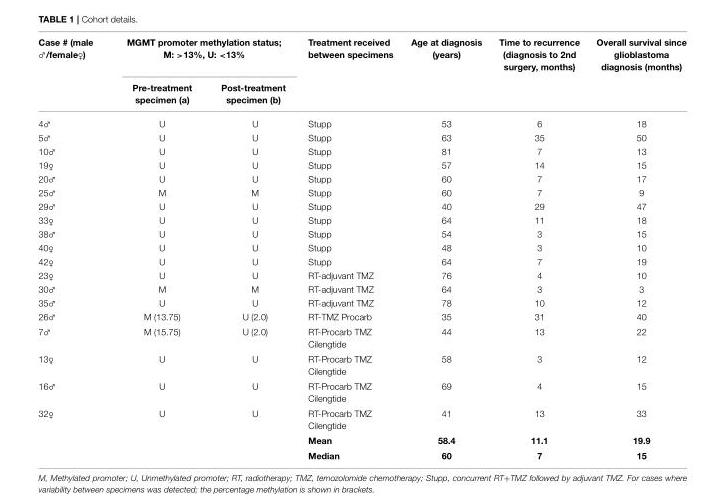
<table><thead><tr><td rowspan="2">Case # (male ♂/female♀)</td><td colspan="2">MGMT promoter methylation status; M: &gt;13%, U: &lt;13%</td><td rowspan="2">Treatment received between specimens</td><td rowspan="2">Age at diagnosis (years)</td><td rowspan="2">Time to recurrence (diagnosis to 2nd surgery, months)</td><td rowspan="2">Overall survival since glioblastoma diagnosis (months)</td></tr><tr><td>Pre-treatment specimen (a)</td><td>Post-treatment specimen (b)</td></tr></thead><tbody><tr><td>4♂</td><td>U</td><td>U</td><td>Stupp</td><td>53</td><td>6</td><td>18</td></tr><tr><td>5♂</td><td>U</td><td>U</td><td>Stupp</td><td>63</td><td>35</td><td>50</td></tr><tr><td>10♂</td><td>U</td><td>U</td><td>Stupp</td><td>81</td><td>7</td><td>13</td></tr><tr><td>19♀</td><td>U</td><td>U</td><td>Stupp</td><td>57</td><td>14</td><td>15</td></tr><tr><td>20♂</td><td>U</td><td>U</td><td>Stupp</td><td>60</td><td>7</td><td>17</td></tr><tr><td>25♂</td><td>M</td><td>M</td><td>Stupp</td><td>60</td><td>7</td><td>9</td></tr><tr><td>29♂</td><td>U</td><td>U</td><td>Stupp</td><td>40</td><td>29</td><td>47</td></tr><tr><td>33♀</td><td>U</td><td>U</td><td>Stupp</td><td>64</td><td>11</td><td>18</td></tr><tr><td>38♂</td><td>U</td><td>U</td><td>Stupp</td><td>54</td><td>3</td><td>15</td></tr><tr><td>40♀</td><td>U</td><td>U</td><td>Stupp</td><td>48</td><td>3</td><td>10</td></tr><tr><td>42♀</td><td>U</td><td>U</td><td>Stupp</td><td>64</td><td>7</td><td>19</td></tr><tr><td>23♀</td><td>U</td><td>U</td><td>RT-adjuvant TMZ</td><td>76</td><td>4</td><td>10</td></tr><tr><td>30♂</td><td>M</td><td>M</td><td>RT-adjuvant TMZ</td><td>64</td><td>3</td><td>3</td></tr><tr><td>35♂</td><td>U</td><td>U</td><td>RT-adjuvant TMZ</td><td>78</td><td>10</td><td>12</td></tr><tr><td>26♂</td><td>M (13.75)</td><td>U (2.0)</td><td>RT-TMZ Procarb</td><td>35</td><td>31</td><td>40</td></tr><tr><td>7♂</td><td>M (15.75)</td><td>U (2.0)</td><td>RT-Procarb TMZ Cilengtide</td><td>44</td><td>13</td><td>22</td></tr><tr><td>13♀</td><td>U</td><td>U</td><td>RT-Procarb TMZ Cilengtide</td><td>58</td><td>3</td><td>12</td></tr><tr><td>16♂</td><td>U</td><td>U</td><td>RT-Procarb TMZ Cilengtide</td><td>69</td><td>4</td><td>15</td></tr><tr><td rowspan="3">32♀</td><td>U</td><td>U</td><td>RT-Procarb TMZ Cilengtide</td><td>41</td><td>13</td><td>33</td></tr><tr><td></td><td></td><td>Mean</td><td>58.4</td><td>11.1</td><td>19.9</td></tr><tr><td></td><td></td><td>Median</td><td>60</td><td>7</td><td>15</td></tr></tbody></table>